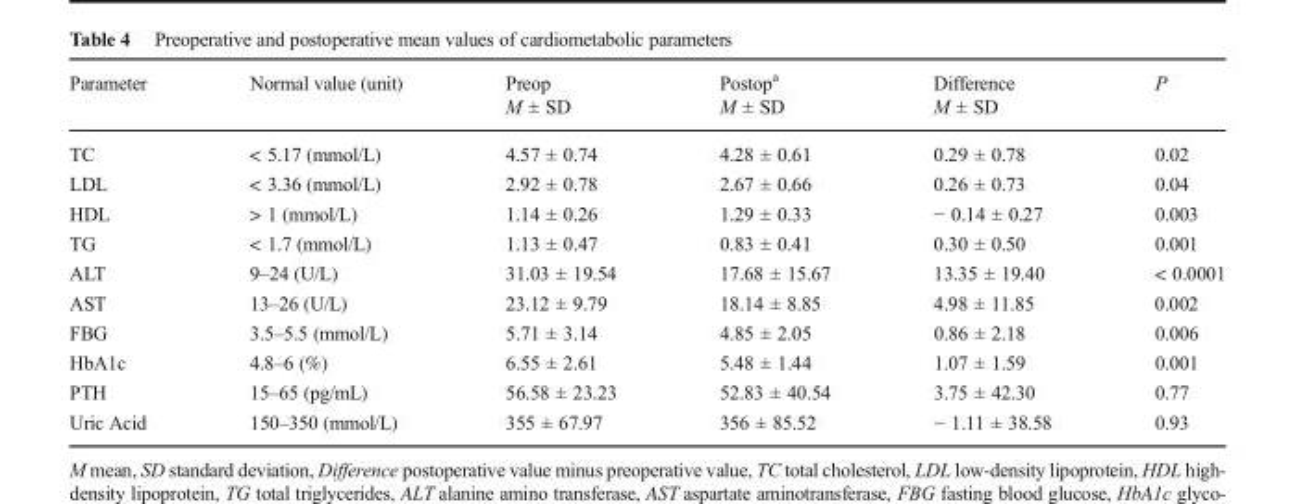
<table><thead><tr><td>Parameter</td><td>Normal value (unit)</td><td>Preop M ± SD</td><td>Postop<sup>a</sup> M ± SD</td><td>Difference M ± SD</td><td>P</td></tr></thead><tbody><tr><td>TC</td><td>&lt; 5.17 (mmol/L)</td><td>4.57 ± 0.74</td><td>4.28 ± 0.61</td><td>0.29 ± 0.78</td><td>0.02</td></tr><tr><td>LDL</td><td>&lt; 3.36 (mmol/L)</td><td>2.92 ± 0.78</td><td>2.67 ± 0.66</td><td>0.26 ± 0.73</td><td>0.04</td></tr><tr><td>HDL</td><td>&gt; 1 (mmol/L)</td><td>1.14 ± 0.26</td><td>1.29 ± 0.33</td><td>− 0.14 ± 0.27</td><td>0.003</td></tr><tr><td>TG</td><td>&lt; 1.7 (mmol/L)</td><td>1.13 ± 0.47</td><td>0.83 ± 0.41</td><td>0.30 ± 0.50</td><td>0.001</td></tr><tr><td>ALT</td><td>9–24 (U/L)</td><td>31.03 ± 19.54</td><td>17.68 ± 15.67</td><td>13.35 ± 19.40</td><td>&lt; 0.0001</td></tr><tr><td>AST</td><td>13–26 (U/L)</td><td>23.12 ± 9.79</td><td>18.14 ± 8.85</td><td>4.98 ± 11.85</td><td>0.002</td></tr><tr><td>FBG</td><td>3.5–5.5 (mmol/L)</td><td>5.71 ± 3.14</td><td>4.85 ± 2.05</td><td>0.86 ± 2.18</td><td>0.006</td></tr><tr><td>HbA1c</td><td>4.8–6 (%)</td><td>6.55 ± 2.61</td><td>5.48 ± 1.44</td><td>1.07 ± 1.59</td><td>0.001</td></tr><tr><td>PTH</td><td>15–65 (pg/mL)</td><td>56.58 ± 23.23</td><td>52.83 ± 40.54</td><td>3.75 ± 42.30</td><td>0.77</td></tr><tr><td>Uric Acid</td><td>150–350 (mmol/L)</td><td>355 ± 67.97</td><td>356 ± 85.52</td><td>− 1.11 ± 38.58</td><td>0.93</td></tr></tbody></table>